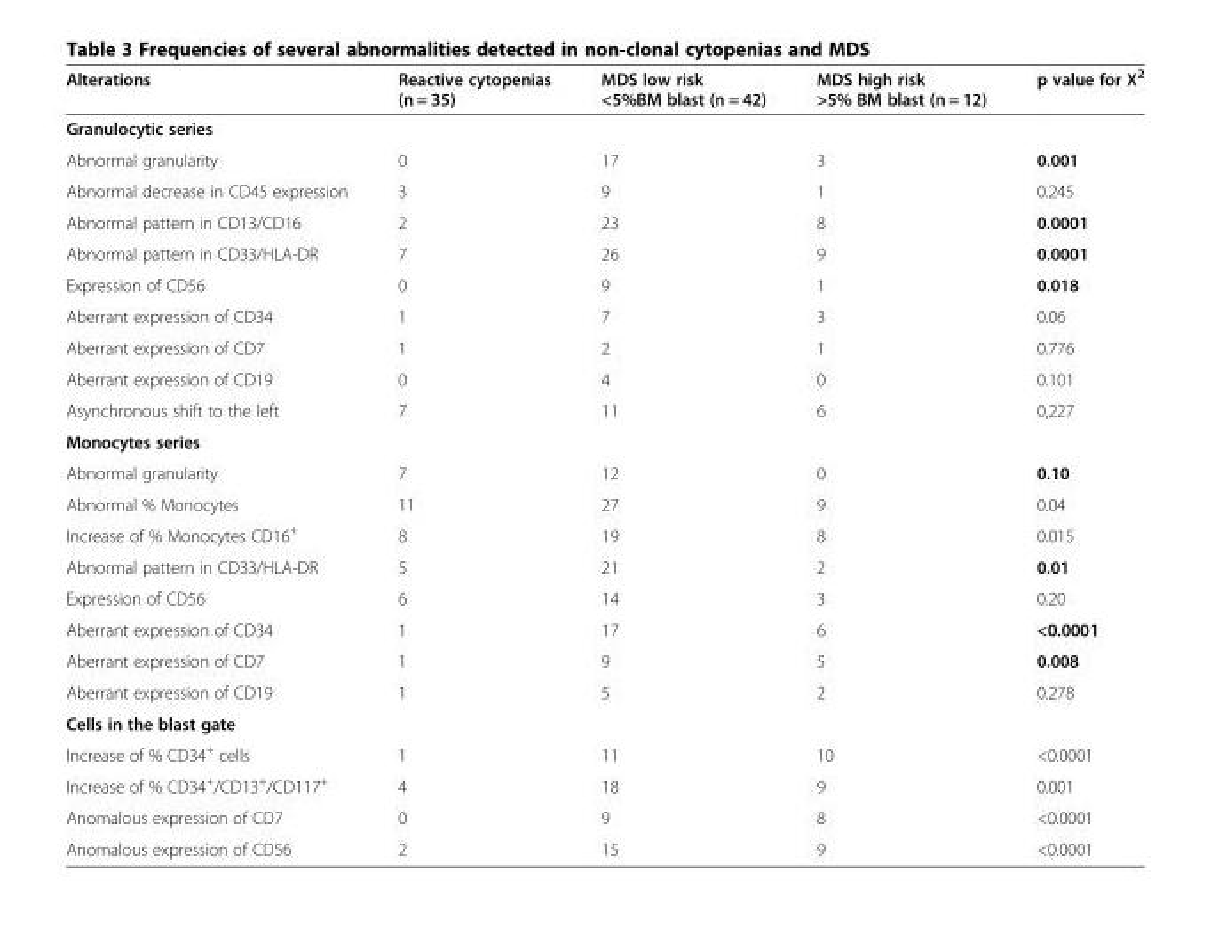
<table><thead><tr><td>Alterations</td><td>Reactive cytopenias (n = 35)</td><td>MDS low risk &lt;5%BM blast (n = 42)</td><td>MDS high risk &gt;5% BM blast (n = 12)</td><td>p value for X<sup>2</sup></td></tr></thead><tbody><tr><td colspan="5">Granulocytic series</td></tr><tr><td>Abnormal granularity</td><td>0</td><td>17</td><td>3</td><td>0.001</td></tr><tr><td>Abnormal decrease in CD45 expression</td><td>3</td><td>9</td><td>1</td><td>0.245</td></tr><tr><td>Abnormal pattern in CD13/CD16</td><td>2</td><td>23</td><td>8</td><td>0.0001</td></tr><tr><td>Abnormal pattern in CD33/HLA-DR</td><td>7</td><td>26</td><td>9</td><td>0.0001</td></tr><tr><td>Expression of CD56</td><td>0</td><td>9</td><td>1</td><td>0.018</td></tr><tr><td>Aberrant expression of CD34</td><td>1</td><td>7</td><td>3</td><td>0.06</td></tr><tr><td>Aberrant expression of CD7</td><td>1</td><td>2</td><td>1</td><td>0.776</td></tr><tr><td>Aberrant expression of CD19</td><td>0</td><td>4</td><td>0</td><td>0.101</td></tr><tr><td>Asynchronous shift to the left</td><td>7</td><td>11</td><td>6</td><td>0,227</td></tr><tr><td colspan="5">Monocytes series</td></tr><tr><td>Abnormal granularity</td><td>7</td><td>12</td><td>0</td><td>0.10</td></tr><tr><td>Abnormal % Monocytes</td><td>11</td><td>27</td><td>9</td><td>0.04</td></tr><tr><td>Increase of % Monocytes CD16<sup>+</sup></td><td>8</td><td>19</td><td>8</td><td>0.015</td></tr><tr><td>Abnormal pattern in CD33/HLA-DR</td><td>5</td><td>21</td><td>2</td><td>0.01</td></tr><tr><td>Expression of CD56</td><td>6</td><td>14</td><td>3</td><td>0.20</td></tr><tr><td>Aberrant expression of CD34</td><td>1</td><td>17</td><td>6</td><td>&lt;0.0001</td></tr><tr><td>Aberrant expression of CD7</td><td>1</td><td>9</td><td>5</td><td>0.008</td></tr><tr><td>Aberrant expression of CD19</td><td>1</td><td>5</td><td>2</td><td>0.278</td></tr><tr><td colspan="5">Cells in the blast gate</td></tr><tr><td>Increase of % CD34<sup>+</sup> cells</td><td>1</td><td>11</td><td>10</td><td>&lt;0.0001</td></tr><tr><td>Increase of % CD34<sup>+</sup>/CD13<sup>+</sup>/CD117<sup>+</sup></td><td>4</td><td>18</td><td>9</td><td>0.001</td></tr><tr><td>Anomalous expression of CD7</td><td>0</td><td>9</td><td>8</td><td>&lt;0.0001</td></tr><tr><td>Anomalous expression of CD56</td><td>2</td><td>15</td><td>9</td><td>&lt;0.0001</td></tr></tbody></table>